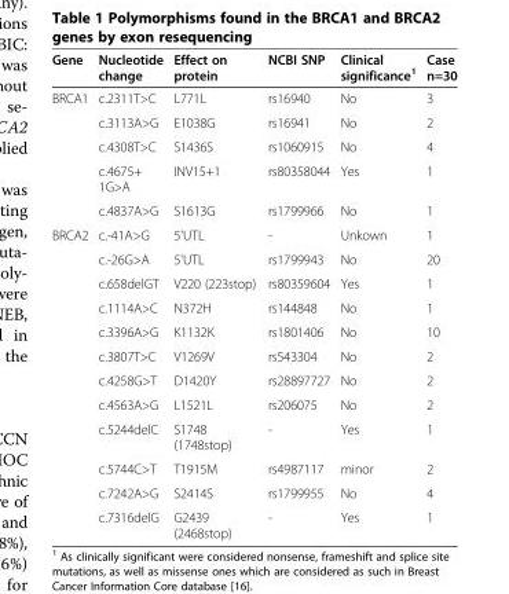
<table><thead><tr><td>Gene</td><td>Nucleotide change</td><td>Effect on protein</td><td>NCBI SNP</td><td>Clinical significance<sup>1</sup></td><td>Case n=30</td></tr></thead><tbody><tr><td rowspan="5">BRCA1</td><td>c.2311T&gt;C</td><td>L771L</td><td>rs16940</td><td>No</td><td>3</td></tr><tr><td>c.3113A&gt;G</td><td>E1038G</td><td>rs16941</td><td>No</td><td>2</td></tr><tr><td>c.4308T&gt;C</td><td>S1436S</td><td>rs1060915</td><td>No</td><td>4</td></tr><tr><td>c.4675+ 1G&gt;A</td><td>INV15+1</td><td>rs80358044</td><td>Yes</td><td>1</td></tr><tr><td>c.4837A&gt;G</td><td>S1613G</td><td>rs1799966</td><td>No</td><td>1</td></tr><tr><td rowspan="12">BRCA2</td><td>c.-41A&gt;G</td><td>5&#x27;UTL</td><td>-</td><td>Unkown</td><td>1</td></tr><tr><td>c.-26G&gt;A</td><td>5&#x27;UTL</td><td>rs1799943</td><td>No</td><td>20</td></tr><tr><td>c.658delGT</td><td>V220 (223stop)</td><td>rs80359604</td><td>Yes</td><td>1</td></tr><tr><td>c.1114A&gt;C</td><td>N372H</td><td>rs144848</td><td>No</td><td>1</td></tr><tr><td>c.3396A&gt;G</td><td>K1132K</td><td>rs1801406</td><td>No</td><td>10</td></tr><tr><td>c.3807T&gt;C</td><td>V1269V</td><td>rs543304</td><td>No</td><td>2</td></tr><tr><td>c.4258G&gt;T</td><td>D1420Y</td><td>rs28897727</td><td>No</td><td>2</td></tr><tr><td>c.4563A&gt;G</td><td>L1521L</td><td>rs206075</td><td>No</td><td>2</td></tr><tr><td>c.5244delC</td><td>S1748 (1748stop)</td><td>-</td><td>Yes</td><td>1</td></tr><tr><td>c.5744C&gt;T</td><td>T1915M</td><td>rs4987117</td><td>minor</td><td>2</td></tr><tr><td>c.7242A&gt;G</td><td>S2414S</td><td>rs1799955</td><td>No</td><td>4</td></tr><tr><td>c.7316delG</td><td>G2439 (2468stop)</td><td>-</td><td>Yes</td><td>1</td></tr></tbody></table>